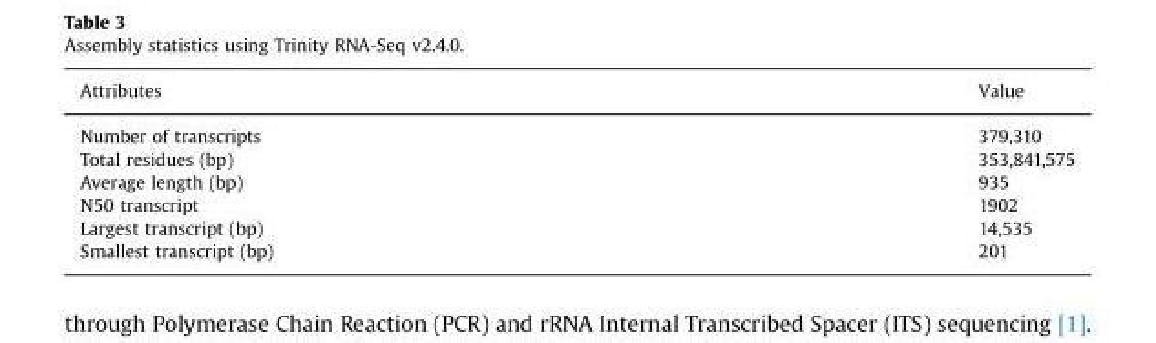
<table><thead><tr><td>Attributes</td><td>Value</td></tr></thead><tbody><tr><td>Number of transcripts</td><td>379,310</td></tr><tr><td>Total residues (bp)</td><td>353,841,575</td></tr><tr><td>Average length (bp)</td><td>935</td></tr><tr><td>N50 transcript</td><td>1902</td></tr><tr><td>Largest transcript (bp)</td><td>14,535</td></tr><tr><td>Smallest transcript (bp)</td><td>201</td></tr></tbody></table>